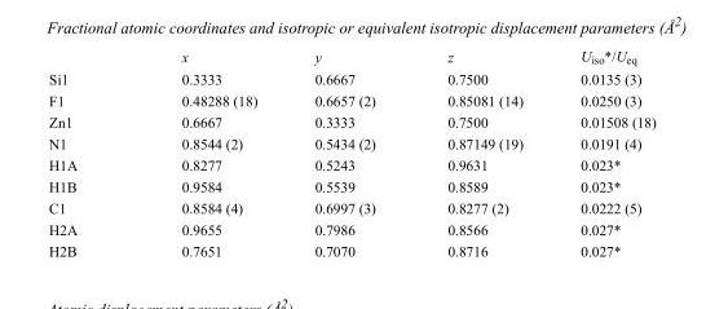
<table><thead><tr><td></td><td>x</td><td>y</td><td>z</td><td>U<sub>iso</sub>*/U<sub>eq</sub></td></tr></thead><tbody><tr><td>Si1</td><td>0.3333</td><td>0.6667</td><td>0.7500</td><td>0.0135 (3)</td></tr><tr><td>F1</td><td>0.48288 (18)</td><td>0.6657 (2)</td><td>0.85081 (14)</td><td>0.0250 (3)</td></tr><tr><td>Zn1</td><td>0.6667</td><td>0.3333</td><td>0.7500</td><td>0.01508 (18)</td></tr><tr><td>N1</td><td>0.8544 (2)</td><td>0.5434 (2)</td><td>0.87149 (19)</td><td>0.0191 (4)</td></tr><tr><td>H1A</td><td>0.8277</td><td>0.5243</td><td>0.9631</td><td>0.023*</td></tr><tr><td>H1B</td><td>0.9584</td><td>0.5539</td><td>0.8589</td><td>0.023*</td></tr><tr><td>C1</td><td>0.8584 (4)</td><td>0.6997 (3)</td><td>0.8277 (2)</td><td>0.0222 (5)</td></tr><tr><td>H2A</td><td>0.9655</td><td>0.7986</td><td>0.8566</td><td>0.027*</td></tr><tr><td>H2B</td><td>0.7651</td><td>0.7070</td><td>0.8716</td><td>0.027*</td></tr></tbody></table>